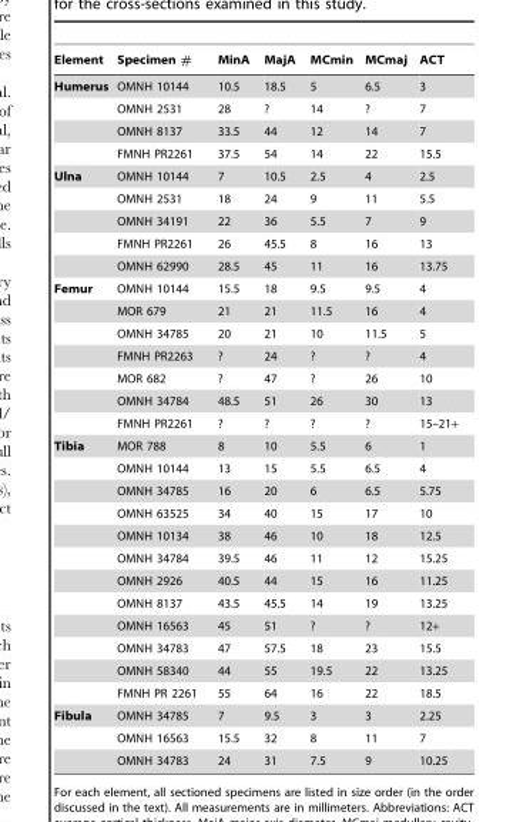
<table><thead><tr><td>Element</td><td>Specimen #</td><td>MinA</td><td>MajA</td><td>MCmin</td><td>MCmaj</td><td>ACT</td></tr></thead><tbody><tr><td rowspan="4">Humerus</td><td>OMNH 10144</td><td>10.5</td><td>18.5</td><td>5</td><td>6.5</td><td>3</td></tr><tr><td>OMNH 2531</td><td>28</td><td>?</td><td>14</td><td>?</td><td>7</td></tr><tr><td>OMNH 8137</td><td>33.5</td><td>44</td><td>12</td><td>14</td><td>7</td></tr><tr><td>FMNH PR2261</td><td>37.5</td><td>54</td><td>14</td><td>22</td><td>15.5</td></tr><tr><td rowspan="5">Ulna</td><td>OMNH 10144</td><td>7</td><td>10.5</td><td>2.5</td><td>4</td><td>2.5</td></tr><tr><td>OMNH 2531</td><td>18</td><td>24</td><td>9</td><td>11</td><td>5.5</td></tr><tr><td>OMNH 34191</td><td>22</td><td>36</td><td>5.5</td><td>7</td><td>9</td></tr><tr><td>FMNH PR2261</td><td>26</td><td>45.5</td><td>8</td><td>16</td><td>13</td></tr><tr><td>OMNH 62990</td><td>28.5</td><td>45</td><td>11</td><td>16</td><td>13.75</td></tr><tr><td rowspan="7">Femur</td><td>OMNH 10144</td><td>15.5</td><td>18</td><td>9.5</td><td>9.5</td><td>4</td></tr><tr><td>MOR 679</td><td>21</td><td>21</td><td>11.5</td><td>16</td><td>4</td></tr><tr><td>OMNH 34785</td><td>20</td><td>21</td><td>10</td><td>11.5</td><td>5</td></tr><tr><td>FMNH PR2263</td><td>?</td><td>24</td><td>?</td><td>?</td><td>4</td></tr><tr><td>MOR 682</td><td>?</td><td>47</td><td>?</td><td>26</td><td>10</td></tr><tr><td>OMNH 34784</td><td>48.5</td><td>51</td><td>26</td><td>30</td><td>13</td></tr><tr><td>FMNH PR2261</td><td>?</td><td>?</td><td>?</td><td>?</td><td>15–21+</td></tr><tr><td rowspan="12">Tibia</td><td>MOR 788</td><td>8</td><td>10</td><td>5.5</td><td>6</td><td>1</td></tr><tr><td>OMNH 10144</td><td>13</td><td>15</td><td>5.5</td><td>6.5</td><td>4</td></tr><tr><td>OMNH 34785</td><td>16</td><td>20</td><td>6</td><td>6.5</td><td>5.75</td></tr><tr><td>OMNH 63525</td><td>34</td><td>40</td><td>15</td><td>17</td><td>10</td></tr><tr><td>OMNH 10134</td><td>38</td><td>46</td><td>10</td><td>18</td><td>12.5</td></tr><tr><td>OMNH 34784</td><td>39.5</td><td>46</td><td>11</td><td>12</td><td>15.25</td></tr><tr><td>OMNH 2926</td><td>40.5</td><td>44</td><td>15</td><td>16</td><td>11.25</td></tr><tr><td>OMNH 8137</td><td>43.5</td><td>45.5</td><td>14</td><td>19</td><td>13.25</td></tr><tr><td>OMNH 16563</td><td>45</td><td>51</td><td>?</td><td>?</td><td>12+</td></tr><tr><td>OMNH 34783</td><td>47</td><td>57.5</td><td>18</td><td>23</td><td>15.5</td></tr><tr><td>OMNH 58340</td><td>44</td><td>55</td><td>19.5</td><td>22</td><td>13.25</td></tr><tr><td>FMNH PR 2261</td><td>55</td><td>64</td><td>16</td><td>22</td><td>18.5</td></tr><tr><td rowspan="3">Fibula</td><td>OMNH 34785</td><td>7</td><td>9.5</td><td>3</td><td>3</td><td>2.25</td></tr><tr><td>OMNH 16563</td><td>15.5</td><td>32</td><td>8</td><td>11</td><td>7</td></tr><tr><td>OMNH 34783</td><td>24</td><td>31</td><td>7.5</td><td>9</td><td>10.25</td></tr></tbody></table>